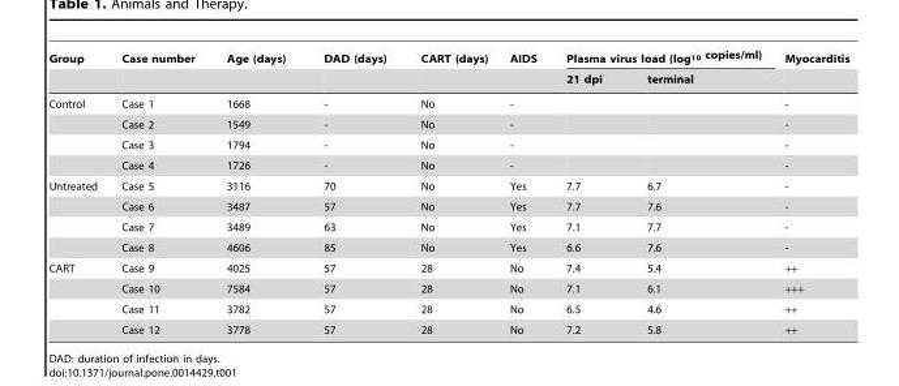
<table><thead><tr><td rowspan="2">Group</td><td rowspan="2">Case number</td><td rowspan="2">Age (days)</td><td rowspan="2">DAD (days)</td><td rowspan="2">CART (days)</td><td rowspan="2">AIDS</td><td colspan="2">Plasma virus load (log<sub>10</sub> copies/ml)</td><td rowspan="2">Myocarditis</td></tr><tr><td>21 dpi</td><td>terminal</td></tr></thead><tbody><tr><td rowspan="4">Control</td><td>Case 1</td><td>1668</td><td>-</td><td>No</td><td>-</td><td></td><td></td><td>-</td></tr><tr><td>Case 2</td><td>1549</td><td>-</td><td>No</td><td>-</td><td></td><td></td><td>-</td></tr><tr><td>Case 3</td><td>1794</td><td>-</td><td>No</td><td>-</td><td></td><td></td><td>-</td></tr><tr><td>Case 4</td><td>1726</td><td>-</td><td>No</td><td>-</td><td></td><td></td><td>-</td></tr><tr><td rowspan="4">Untreated</td><td>Case 5</td><td>3116</td><td>70</td><td>No</td><td>Yes</td><td>7.7</td><td>6.7</td><td>-</td></tr><tr><td>Case 6</td><td>3487</td><td>57</td><td>No</td><td>Yes</td><td>7.7</td><td>7.6</td><td>-</td></tr><tr><td>Case 7</td><td>3489</td><td>63</td><td>No</td><td>Yes</td><td>7.1</td><td>7.7</td><td>-</td></tr><tr><td>Case 8</td><td>4606</td><td>85</td><td>No</td><td>Yes</td><td>6.6</td><td>7.6</td><td>-</td></tr><tr><td rowspan="4">CART</td><td>Case 9</td><td>4025</td><td>57</td><td>28</td><td>No</td><td>7.4</td><td>5.4</td><td>++</td></tr><tr><td>Case 10</td><td>7584</td><td>57</td><td>28</td><td>No</td><td>7.1</td><td>6.1</td><td>+++</td></tr><tr><td>Case 11</td><td>3782</td><td>57</td><td>28</td><td>No</td><td>6.5</td><td>4.6</td><td>++</td></tr><tr><td>Case 12</td><td>3778</td><td>57</td><td>28</td><td>No</td><td>7.2</td><td>5.8</td><td>++</td></tr></tbody></table>